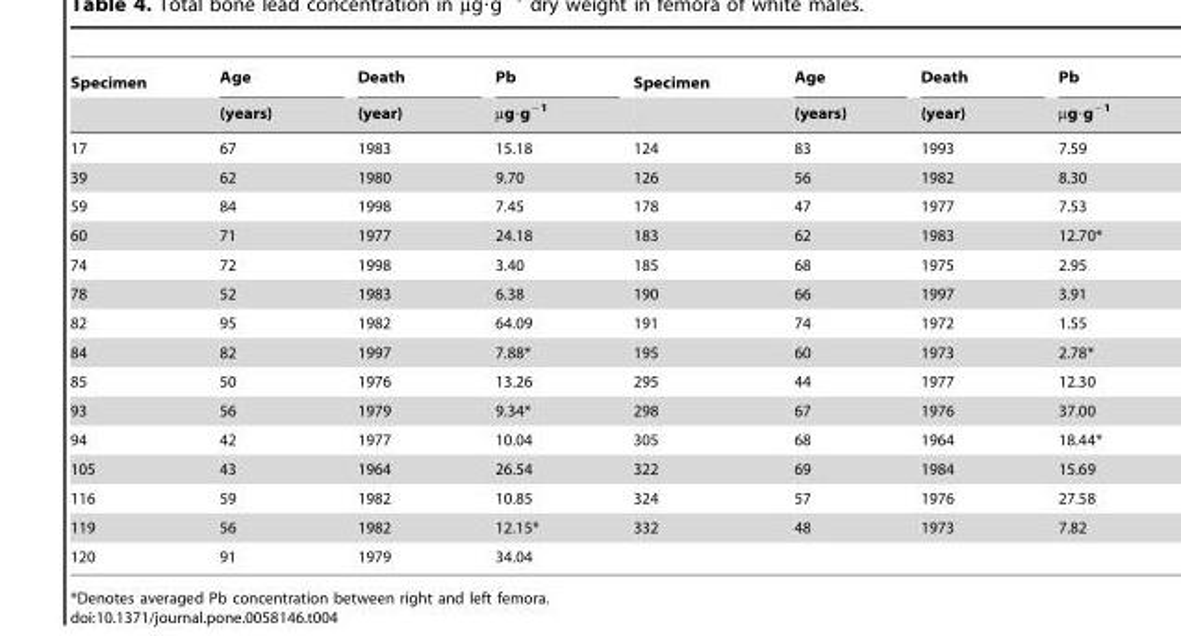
<table><thead><tr><td rowspan="2">Specimen</td><td rowspan="2">Age (years)</td><td rowspan="2">Death (year)</td><td rowspan="2">Pb µg·g<sup>−1</sup></td><td rowspan="2">Specimen</td><td rowspan="2">Age (years)</td><td rowspan="2">Death (year)</td><td rowspan="2">Pb µg·g<sup>−1</sup></td></tr><tr></tr></thead><tbody><tr><td>17</td><td>67</td><td>1983</td><td>15.18</td><td>124</td><td>83</td><td>1993</td><td>7.59</td></tr><tr><td>39</td><td>62</td><td>1980</td><td>9.70</td><td>126</td><td>56</td><td>1982</td><td>8.30</td></tr><tr><td>59</td><td>84</td><td>1998</td><td>7.45</td><td>178</td><td>47</td><td>1977</td><td>7.53</td></tr><tr><td>60</td><td>71</td><td>1977</td><td>24.18</td><td>183</td><td>62</td><td>1983</td><td>12.70*</td></tr><tr><td>74</td><td>72</td><td>1998</td><td>3.40</td><td>185</td><td>68</td><td>1975</td><td>2.95</td></tr><tr><td>78</td><td>52</td><td>1983</td><td>6.38</td><td>190</td><td>66</td><td>1997</td><td>3.91</td></tr><tr><td>82</td><td>95</td><td>1982</td><td>64.09</td><td>191</td><td>74</td><td>1972</td><td>1.55</td></tr><tr><td>84</td><td>82</td><td>1997</td><td>7.88*</td><td>195</td><td>60</td><td>1973</td><td>2.78*</td></tr><tr><td>85</td><td>50</td><td>1976</td><td>13.26</td><td>295</td><td>44</td><td>1977</td><td>12.30</td></tr><tr><td>93</td><td>56</td><td>1979</td><td>9.34*</td><td>298</td><td>67</td><td>1976</td><td>37.00</td></tr><tr><td>94</td><td>42</td><td>1977</td><td>10.04</td><td>305</td><td>68</td><td>1964</td><td>18.44*</td></tr><tr><td>105</td><td>43</td><td>1964</td><td>26.54</td><td>322</td><td>69</td><td>1984</td><td>15.69</td></tr><tr><td>116</td><td>59</td><td>1982</td><td>10.85</td><td>324</td><td>57</td><td>1976</td><td>27.58</td></tr><tr><td>119</td><td>56</td><td>1982</td><td>12.15*</td><td>332</td><td>48</td><td>1973</td><td>7.82</td></tr><tr><td>120</td><td>91</td><td>1979</td><td>34.04</td><td></td><td></td><td></td><td></td></tr></tbody></table>